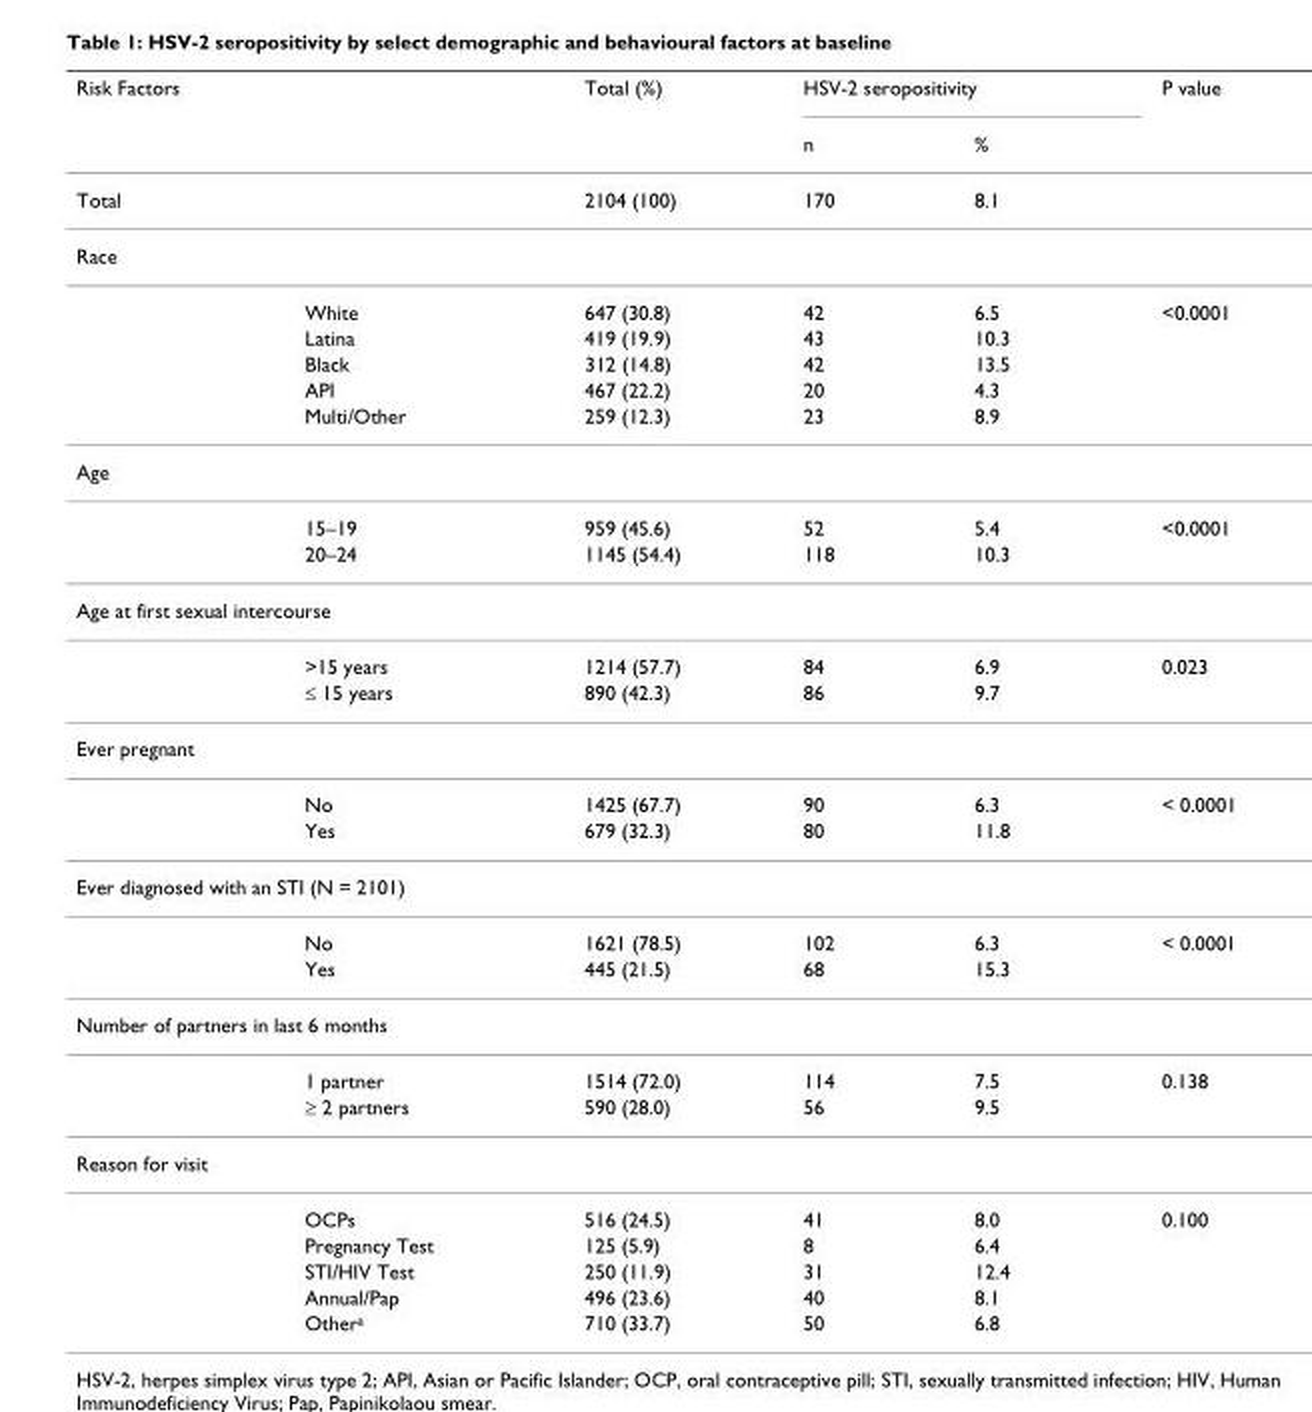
<table><thead><tr><td rowspan="2">Risk Factors</td><td rowspan="2"></td><td rowspan="2">Total (%)</td><td colspan="2">HSV-2 seropositivity</td><td rowspan="2">P value</td></tr><tr><td>n</td><td>%</td></tr></thead><tbody><tr><td>Total</td><td></td><td>2104 (100)</td><td>170</td><td>8.1</td><td></td></tr><tr><td colspan="6">Race</td></tr><tr><td></td><td>White</td><td>647 (30.8)</td><td>42</td><td>6.5</td><td>&lt;0.0001</td></tr><tr><td></td><td>Latina</td><td>419 (19.9)</td><td>43</td><td>10.3</td><td></td></tr><tr><td></td><td>Black</td><td>312 (14.8)</td><td>42</td><td>13.5</td><td></td></tr><tr><td></td><td>API</td><td>467 (22.2)</td><td>20</td><td>4.3</td><td></td></tr><tr><td></td><td>Multi/Other</td><td>259 (12.3)</td><td>23</td><td>8.9</td><td></td></tr><tr><td colspan="6">Age</td></tr><tr><td></td><td>15–19</td><td>959 (45.6)</td><td>52</td><td>5.4</td><td>&lt;0.0001</td></tr><tr><td></td><td>20–24</td><td>1145 (54.4)</td><td>118</td><td>10.3</td><td></td></tr><tr><td colspan="6">Age at first sexual intercourse</td></tr><tr><td></td><td>&gt;15 years</td><td>1214 (57.7)</td><td>84</td><td>6.9</td><td>0.023</td></tr><tr><td></td><td>≤ 15 years</td><td>890 (42.3)</td><td>86</td><td>9.7</td><td></td></tr><tr><td colspan="6">Ever pregnant</td></tr><tr><td></td><td>No</td><td>1425 (67.7)</td><td>90</td><td>6.3</td><td>&lt; 0.0001</td></tr><tr><td></td><td>Yes</td><td>679 (32.3)</td><td>80</td><td>11.8</td><td></td></tr><tr><td colspan="6">Ever diagnosed with an STI (N = 2101)</td></tr><tr><td></td><td>No</td><td>1621 (78.5)</td><td>102</td><td>6.3</td><td>&lt; 0.0001</td></tr><tr><td></td><td>Yes</td><td>445 (21.5)</td><td>68</td><td>15.3</td><td></td></tr><tr><td colspan="6">Number of partners in last 6 months</td></tr><tr><td></td><td>1 partner</td><td>1514 (72.0)</td><td>114</td><td>7.5</td><td>0.138</td></tr><tr><td></td><td>≥ 2 partners</td><td>590 (28.0)</td><td>56</td><td>9.5</td><td></td></tr><tr><td colspan="6">Reason for visit</td></tr><tr><td></td><td>OCPs</td><td>516 (24.5)</td><td>41</td><td>8.0</td><td>0.100</td></tr><tr><td></td><td>Pregnancy Test</td><td>125 (5.9)</td><td>8</td><td>6.4</td><td></td></tr><tr><td></td><td>STI/HIV Test</td><td>250 (11.9)</td><td>31</td><td>12.4</td><td></td></tr><tr><td></td><td>Annual/Pap</td><td>496 (23.6)</td><td>40</td><td>8.1</td><td></td></tr><tr><td></td><td>Other<sup>a</sup></td><td>710 (33.7)</td><td>50</td><td>6.8</td><td></td></tr></tbody></table>